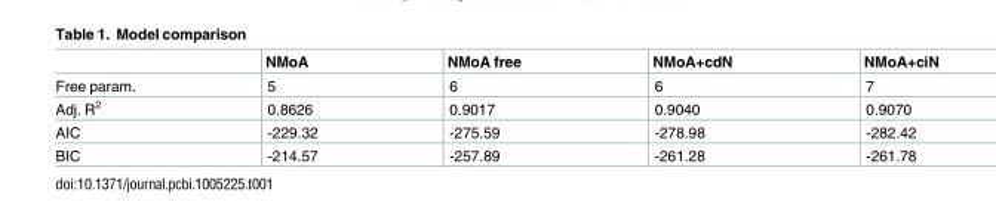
<table><thead><tr><td></td><td>NMoA</td><td>NMoA free</td><td>NMoA+cdN</td><td>NMoA+ciN</td></tr></thead><tbody><tr><td>Free param.</td><td>5</td><td>6</td><td>6</td><td>7</td></tr><tr><td>Adj. R<sup>2</sup></td><td>0.8626</td><td>0.9017</td><td>0.9040</td><td>0.9070</td></tr><tr><td>AIC</td><td>-229.32</td><td>-275.59</td><td>-278.98</td><td>-282.42</td></tr><tr><td>BIC</td><td>-214.57</td><td>-257.89</td><td>-261.28</td><td>-261.78</td></tr></tbody></table>